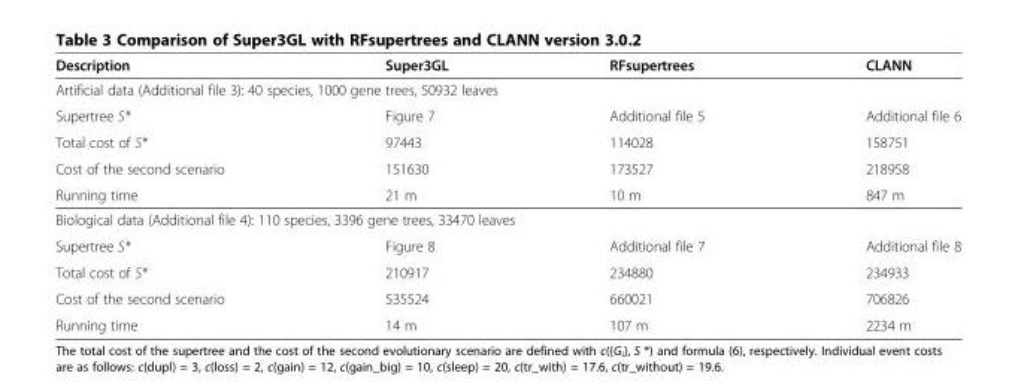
<table><thead><tr><td>Description</td><td>Super3GL</td><td>RFsupertrees</td><td>CLANN</td></tr></thead><tbody><tr><td colspan="4">Artificial data (Additional file 3): 40 species, 1000 gene trees, 50932 leaves</td></tr><tr><td>Supertree S*</td><td>Figure 7</td><td>Additional file 5</td><td>Additional file 6</td></tr><tr><td>Total cost of S*</td><td>97443</td><td>114028</td><td>158751</td></tr><tr><td>Cost of the second scenario</td><td>151630</td><td>173527</td><td>218958</td></tr><tr><td>Running time</td><td>21 m</td><td>10 m</td><td>847 m</td></tr><tr><td colspan="4">Biological data (Additional file 4): 110 species, 3396 gene trees, 33470 leaves</td></tr><tr><td>Supertree S*</td><td>Figure 8</td><td>Additional file 7</td><td>Additional file 8</td></tr><tr><td>Total cost of S*</td><td>210917</td><td>234880</td><td>234933</td></tr><tr><td>Cost of the second scenario</td><td>535524</td><td>660021</td><td>706826</td></tr><tr><td>Running time</td><td>14 m</td><td>107 m</td><td>2234 m</td></tr></tbody></table>